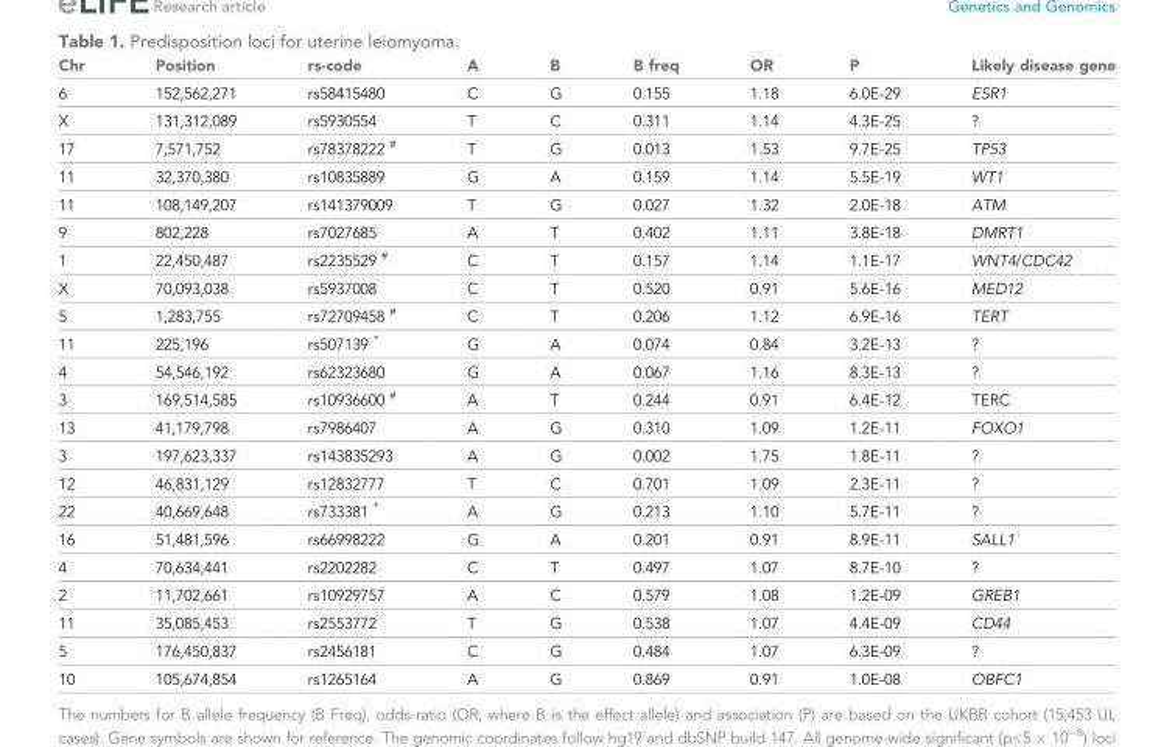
<table><thead><tr><td>Chr</td><td>Position</td><td>rs-code</td><td>A</td><td>B</td><td>B freq</td><td>OR</td><td>P</td><td>Likely disease gene</td></tr></thead><tbody><tr><td>6</td><td>152,562,271</td><td>rs58415480</td><td>C</td><td>G</td><td>0.155</td><td>1.18</td><td>6.0E-29</td><td>ESR1</td></tr><tr><td>X</td><td>131,312,089</td><td>rs5930554</td><td>T</td><td>C</td><td>0.311</td><td>1.14</td><td>4.3E-25</td><td>?</td></tr><tr><td>17</td><td>7,571,752</td><td>rs78378222 <sup>#</sup></td><td>T</td><td>G</td><td>0.013</td><td>1.53</td><td>9.7E-25</td><td>TP53</td></tr><tr><td>11</td><td>32,370,380</td><td>rs10835889</td><td>G</td><td>A</td><td>0.159</td><td>1.14</td><td>5.5E-19</td><td>WT1</td></tr><tr><td>11</td><td>108,149,207</td><td>rs141379009</td><td>T</td><td>G</td><td>0.027</td><td>1.32</td><td>2.0E-18</td><td>ATM</td></tr><tr><td>9</td><td>802,228</td><td>rs7027685</td><td>A</td><td>T</td><td>0.402</td><td>1.11</td><td>3.8E-18</td><td>DMRT1</td></tr><tr><td>1</td><td>22,450,487</td><td>rs2235529 <sup>#</sup></td><td>C</td><td>T</td><td>0.157</td><td>1.14</td><td>1.1E-17</td><td>WNT4/CDC42</td></tr><tr><td>X</td><td>70,093,038</td><td>rs5937008</td><td>C</td><td>T</td><td>0.520</td><td>0.91</td><td>5.6E-16</td><td>MED12</td></tr><tr><td>5</td><td>1,283,755</td><td>rs72709458 <sup>#</sup></td><td>C</td><td>T</td><td>0.206</td><td>1.12</td><td>6.9E-16</td><td>TERT</td></tr><tr><td>11</td><td>225,196</td><td>rs507139 *</td><td>G</td><td>A</td><td>0.074</td><td>0.84</td><td>3.2E-13</td><td>?</td></tr><tr><td>4</td><td>54,546,192</td><td>rs62323680</td><td>G</td><td>A</td><td>0.067</td><td>1.16</td><td>8.3E-13</td><td>?</td></tr><tr><td>3</td><td>169,514,585</td><td>rs10936600 <sup>#</sup></td><td>A</td><td>T</td><td>0.244</td><td>0.91</td><td>6.4E-12</td><td>TERC</td></tr><tr><td>13</td><td>41,179,798</td><td>rs7986407</td><td>A</td><td>G</td><td>0.310</td><td>1.09</td><td>1.2E-11</td><td>FOXO1</td></tr><tr><td>3</td><td>197,623,337</td><td>rs143835293</td><td>A</td><td>G</td><td>0.002</td><td>1.75</td><td>1.8E-11</td><td>?</td></tr><tr><td>12</td><td>46,831,129</td><td>rs12832777</td><td>T</td><td>C</td><td>0.701</td><td>1.09</td><td>2.3E-11</td><td>?</td></tr><tr><td>22</td><td>40,669,648</td><td>rs733381 *</td><td>A</td><td>G</td><td>0.213</td><td>1.10</td><td>5.7E-11</td><td>?</td></tr><tr><td>16</td><td>51,481,596</td><td>rs66998222</td><td>G</td><td>A</td><td>0.201</td><td>0.91</td><td>8.9E-11</td><td>SALL1</td></tr><tr><td>4</td><td>70,634,441</td><td>rs2202282</td><td>C</td><td>T</td><td>0.497</td><td>1.07</td><td>8.7E-10</td><td>?</td></tr><tr><td>2</td><td>11,702,661</td><td>rs10929757</td><td>A</td><td>C</td><td>0.579</td><td>1.08</td><td>1.2E-09</td><td>GREB1</td></tr><tr><td>11</td><td>35,085,453</td><td>rs2553772</td><td>T</td><td>G</td><td>0.538</td><td>1.07</td><td>4.4E-09</td><td>CD44</td></tr><tr><td>5</td><td>176,450,837</td><td>rs2456181</td><td>C</td><td>G</td><td>0.484</td><td>1.07</td><td>6.3E-09</td><td>?</td></tr><tr><td>10</td><td>105,674,854</td><td>rs1265164</td><td>A</td><td>G</td><td>0.869</td><td>0.91</td><td>1.0E-08</td><td>OBFC1</td></tr></tbody></table>